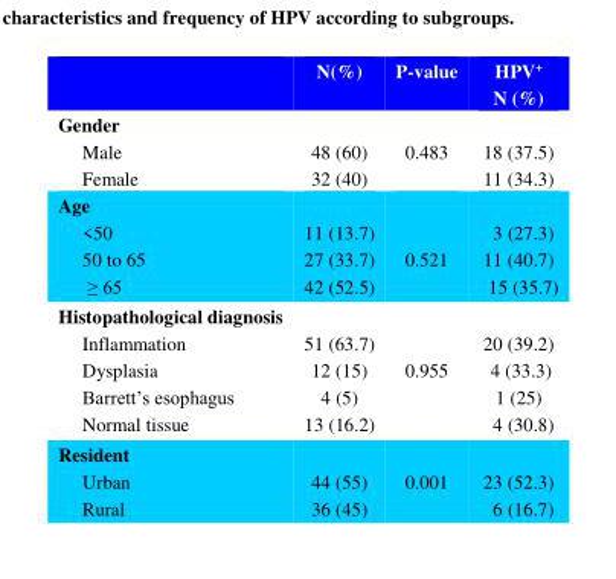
<table><thead><tr><td></td><td>N(%)</td><td>P-value</td><td>HPV<sup>+</sup> N (%)</td></tr></thead><tbody><tr><td colspan="4">Gender</td></tr><tr><td>Male Female</td><td>48 (60) 32 (40)</td><td>0.483</td><td>18 (37.5) 11 (34.3)</td></tr><tr><td colspan="4">Age</td></tr><tr><td>&lt;50 50 to 65 ≥ 65</td><td>11 (13.7) 27 (33.7) 42 (52.5)</td><td>0.521</td><td>3 (27.3) 11 (40.7) 15 (35.7)</td></tr><tr><td colspan="4">Histopathological diagnosis</td></tr><tr><td>Inflammation Dysplasia Barrett’s esophagus Normal tissue</td><td>51 (63.7) 12 (15) 4 (5) 13 (16.2)</td><td>0.955</td><td>20 (39.2) 4 (33.3) 1 (25) 4 (30.8)</td></tr><tr><td colspan="4">Resident</td></tr><tr><td>Urban Rural</td><td>44 (55) 36 (45)</td><td>0.001</td><td>23 (52.3) 6 (16.7)</td></tr></tbody></table>